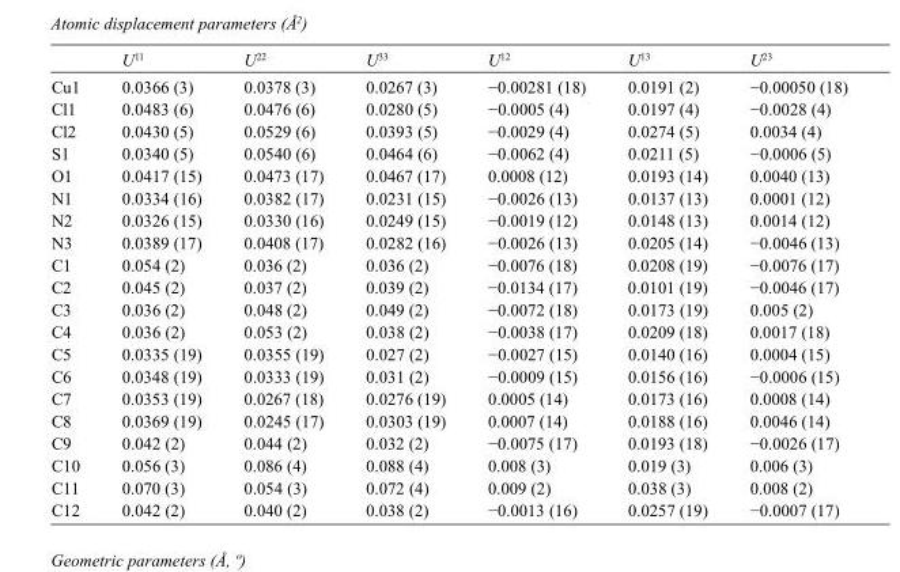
<table><thead><tr><td></td><td>U<sup>11</sup></td><td>U<sup>22</sup></td><td>U<sup>33</sup></td><td>U<sup>12</sup></td><td>U<sup>13</sup></td><td>U<sup>23</sup></td></tr></thead><tbody><tr><td>Cu1</td><td>0.0366 (3)</td><td>0.0378 (3)</td><td>0.0267 (3)</td><td>−0.00281 (18)</td><td>0.0191 (2)</td><td>−0.00050 (18)</td></tr><tr><td>Cl1</td><td>0.0483 (6)</td><td>0.0476 (6)</td><td>0.0280 (5)</td><td>−0.0005 (4)</td><td>0.0197 (4)</td><td>−0.0028 (4)</td></tr><tr><td>Cl2</td><td>0.0430 (5)</td><td>0.0529 (6)</td><td>0.0393 (5)</td><td>−0.0029 (4)</td><td>0.0274 (5)</td><td>0.0034 (4)</td></tr><tr><td>S1</td><td>0.0340 (5)</td><td>0.0540 (6)</td><td>0.0464 (6)</td><td>−0.0062 (4)</td><td>0.0211 (5)</td><td>−0.0006 (5)</td></tr><tr><td>O1</td><td>0.0417 (15)</td><td>0.0473 (17)</td><td>0.0467 (17)</td><td>0.0008 (12)</td><td>0.0193 (14)</td><td>0.0040 (13)</td></tr><tr><td>N1</td><td>0.0334 (16)</td><td>0.0382 (17)</td><td>0.0231 (15)</td><td>−0.0026 (13)</td><td>0.0137 (13)</td><td>0.0001 (12)</td></tr><tr><td>N2</td><td>0.0326 (15)</td><td>0.0330 (16)</td><td>0.0249 (15)</td><td>−0.0019 (12)</td><td>0.0148 (13)</td><td>0.0014 (12)</td></tr><tr><td>N3</td><td>0.0389 (17)</td><td>0.0408 (17)</td><td>0.0282 (16)</td><td>−0.0026 (13)</td><td>0.0205 (14)</td><td>−0.0046 (13)</td></tr><tr><td>C1</td><td>0.054 (2)</td><td>0.036 (2)</td><td>0.036 (2)</td><td>−0.0076 (18)</td><td>0.0208 (19)</td><td>−0.0076 (17)</td></tr><tr><td>C2</td><td>0.045 (2)</td><td>0.037 (2)</td><td>0.039 (2)</td><td>−0.0134 (17)</td><td>0.0101 (19)</td><td>−0.0046 (17)</td></tr><tr><td>C3</td><td>0.036 (2)</td><td>0.048 (2)</td><td>0.049 (2)</td><td>−0.0072 (18)</td><td>0.0173 (19)</td><td>0.005 (2)</td></tr><tr><td>C4</td><td>0.036 (2)</td><td>0.053 (2)</td><td>0.038 (2)</td><td>−0.0038 (17)</td><td>0.0209 (18)</td><td>0.0017 (18)</td></tr><tr><td>C5</td><td>0.0335 (19)</td><td>0.0355 (19)</td><td>0.027 (2)</td><td>−0.0027 (15)</td><td>0.0140 (16)</td><td>0.0004 (15)</td></tr><tr><td>C6</td><td>0.0348 (19)</td><td>0.0333 (19)</td><td>0.031 (2)</td><td>−0.0009 (15)</td><td>0.0156 (16)</td><td>−0.0006 (15)</td></tr><tr><td>C7</td><td>0.0353 (19)</td><td>0.0267 (18)</td><td>0.0276 (19)</td><td>0.0005 (14)</td><td>0.0173 (16)</td><td>0.0008 (14)</td></tr><tr><td>C8</td><td>0.0369 (19)</td><td>0.0245 (17)</td><td>0.0303 (19)</td><td>0.0007 (14)</td><td>0.0188 (16)</td><td>0.0046 (14)</td></tr><tr><td>C9</td><td>0.042 (2)</td><td>0.044 (2)</td><td>0.032 (2)</td><td>−0.0075 (17)</td><td>0.0193 (18)</td><td>−0.0026 (17)</td></tr><tr><td>C10</td><td>0.056 (3)</td><td>0.086 (4)</td><td>0.088 (4)</td><td>0.008 (3)</td><td>0.019 (3)</td><td>0.006 (3)</td></tr><tr><td>C11</td><td>0.070 (3)</td><td>0.054 (3)</td><td>0.072 (4)</td><td>0.009 (2)</td><td>0.038 (3)</td><td>0.008 (2)</td></tr><tr><td>C12</td><td>0.042 (2)</td><td>0.040 (2)</td><td>0.038 (2)</td><td>−0.0013 (16)</td><td>0.0257 (19)</td><td>−0.0007 (17)</td></tr></tbody></table>